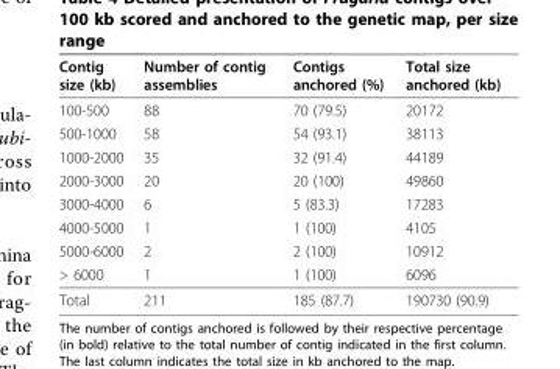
<table><thead><tr><td>Contig size (kb)</td><td>Number of contig assemblies</td><td>Contigs anchored (%)</td><td>Total size anchored (kb)</td></tr></thead><tbody><tr><td>100-500</td><td>88</td><td>70 (79.5)</td><td>20172</td></tr><tr><td>500-1000</td><td>58</td><td>54 (93.1)</td><td>38113</td></tr><tr><td>1000-2000</td><td>35</td><td>32 (91.4)</td><td>44189</td></tr><tr><td>2000-3000</td><td>20</td><td>20 (100)</td><td>49860</td></tr><tr><td>3000-4000</td><td>6</td><td>5 (83.3)</td><td>17283</td></tr><tr><td>4000-5000</td><td>1</td><td>1 (100)</td><td>4105</td></tr><tr><td>5000-6000</td><td>2</td><td>2 (100)</td><td>10912</td></tr><tr><td>&gt; 6000</td><td>1</td><td>1 (100)</td><td>6096</td></tr><tr><td>Total</td><td>211</td><td>185 (87.7)</td><td>190730 (90.9)</td></tr></tbody></table>